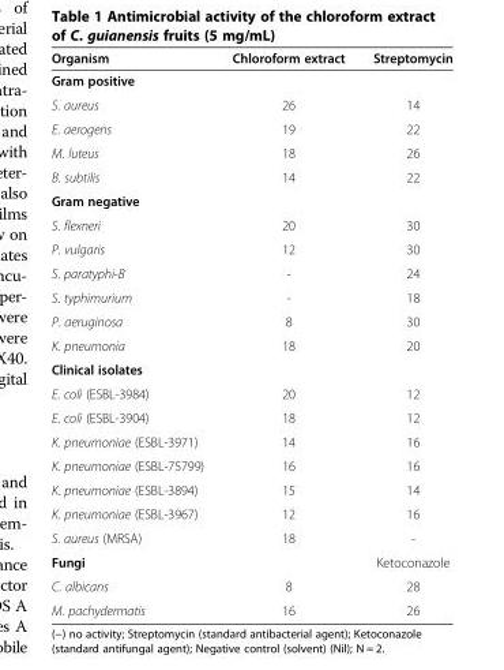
<table><thead><tr><td>Organism</td><td>Chloroform extract</td><td>Streptomycin</td></tr></thead><tbody><tr><td colspan="3">Gram positive</td></tr><tr><td>S. aureus</td><td>26</td><td>14</td></tr><tr><td>E. aerogens</td><td>19</td><td>22</td></tr><tr><td>M. luteus</td><td>18</td><td>26</td></tr><tr><td>B. subtilis</td><td>14</td><td>22</td></tr><tr><td colspan="3">Gram negative</td></tr><tr><td>S. flexneri</td><td>20</td><td>30</td></tr><tr><td>P. vulgaris</td><td>12</td><td>30</td></tr><tr><td>S. paratyphi-B</td><td>-</td><td>24</td></tr><tr><td>S. typhimurium</td><td>-</td><td>18</td></tr><tr><td>P. aeruginosa</td><td>8</td><td>30</td></tr><tr><td>K. pneumonia</td><td>18</td><td>20</td></tr><tr><td colspan="3">Clinical isolates</td></tr><tr><td>E. coli (ESBL-3984)</td><td>20</td><td>12</td></tr><tr><td>E. coli (ESBL-3904)</td><td>18</td><td>12</td></tr><tr><td>K. pneumoniae (ESBL-3971)</td><td>14</td><td>16</td></tr><tr><td>K. pneumoniae (ESBL-75799)</td><td>16</td><td>16</td></tr><tr><td>K. pneumoniae (ESBL-3894)</td><td>15</td><td>14</td></tr><tr><td>K. pneumoniae (ESBL-3967)</td><td>12</td><td>16</td></tr><tr><td>S. aureus (MRSA)</td><td>18</td><td>-</td></tr><tr><td>Fungi</td><td></td><td>Ketoconazole</td></tr><tr><td>C. albicans</td><td>8</td><td>28</td></tr><tr><td>M. pachydermatis</td><td>16</td><td>26</td></tr></tbody></table>